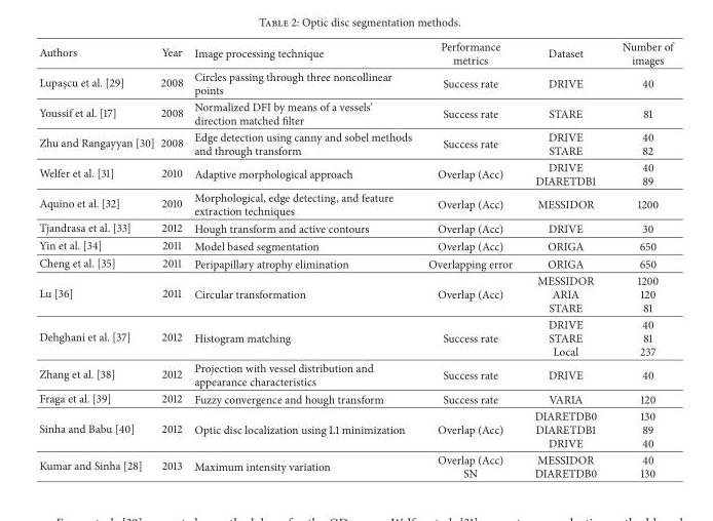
<table><thead><tr><td>Authors</td><td>Year</td><td>Image processing technique</td><td>Performance metrics</td><td>Dataset</td><td>Number of images</td></tr></thead><tbody><tr><td>Lupas¸cu et al. [29]</td><td>2008</td><td>Circles passing through three noncollinear points</td><td>Success rate</td><td>DRIVE</td><td>40</td></tr><tr><td>Youssif et al. [17]</td><td>2008</td><td>Normalized DFI by means of a vessels’ direction matched filter</td><td>Success rate</td><td>STARE</td><td>81</td></tr><tr><td>Zhu and Rangayyan [30]</td><td>2008</td><td>Edge detection using canny and sobel methods and through transform</td><td>Success rate</td><td>DRIVE STARE</td><td>40 82</td></tr><tr><td>Welfer et al. [31]</td><td>2010</td><td>Adaptive morphological approach</td><td>Overlap (Acc)</td><td>DRIVE DIARETDB1</td><td>40 89</td></tr><tr><td>Aquino et al. [32]</td><td>2010</td><td>Morphological, edge detecting, and feature extraction techniques</td><td>Overlap (Acc)</td><td>MESSIDOR</td><td>1200</td></tr><tr><td>Tjandrasa et al. [33]</td><td>2012</td><td>Hough transform and active contours</td><td>Overlap (Acc)</td><td>DRIVE</td><td>30</td></tr><tr><td>Yin et al. [34]</td><td>2011</td><td>Model based segmentation</td><td>Overlap (Acc)</td><td>ORIGA</td><td>650</td></tr><tr><td>Cheng et al. [35]</td><td>2011</td><td>Peripapillary atrophy elimination</td><td>Overlapping error</td><td>ORIGA</td><td>650</td></tr><tr><td>Lu [36]</td><td>2011</td><td>Circular transformation</td><td>Overlap (Acc)</td><td>MESSIDOR ARIA STARE</td><td>1200 120 81</td></tr><tr><td>Dehghani et al. [37]</td><td>2012</td><td>Histogram matching</td><td>Success rate</td><td>DRIVE STARE Local</td><td>40 81 237</td></tr><tr><td>Zhang et al. [38]</td><td>2012</td><td>Projection with vessel distribution and appearance characteristics</td><td>Success rate</td><td>DRIVE</td><td>40</td></tr><tr><td>Fraga et al. [39]</td><td>2012</td><td>Fuzzy convergence and hough transform</td><td>Success rate</td><td>VARIA</td><td>120</td></tr><tr><td>Sinha and Babu [40]</td><td>2012</td><td>Optic disc localization using L1 minimization</td><td>Overlap (Acc)</td><td>DIARETDB0 DIARETDB1 DRIVE</td><td>130 89 40</td></tr><tr><td>Kumar and Sinha [28]</td><td>2013</td><td>Maximum intensity variation</td><td>Overlap (Acc) SN</td><td>MESSIDOR DIARETDB0</td><td>40 130</td></tr></tbody></table>